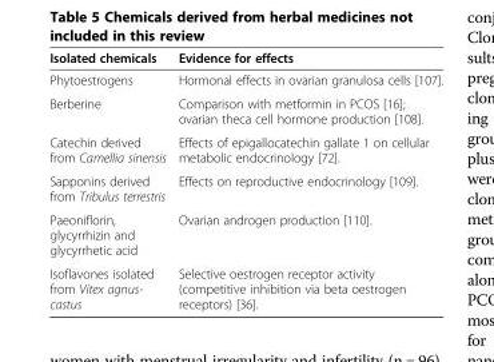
<table><thead><tr><td>Isolated chemicals</td><td>Evidence for effects</td></tr></thead><tbody><tr><td>Phytoestrogens</td><td>Hormonal effects in ovarian granulosa cells [107].</td></tr><tr><td>Berberine</td><td>Comparison with metformin in PCOS [16]; ovarian theca cell hormone production [108].</td></tr><tr><td>Catechin derived from Camellia sinensis</td><td>Effects of epigallocatechin gallate 1 on cellular metabolic endocrinology [72].</td></tr><tr><td>Sapponins derived from Tribulus terrestris</td><td>Effects on reproductive endocrinology [109].</td></tr><tr><td>Paeoniflorin, glycyrrhizin and glycyrrhetic acid</td><td>Ovarian androgen production [110].</td></tr><tr><td>Isoflavones isolated from Vitex agnus- castus</td><td>Selective oestrogen receptor activity (competitive inhibition via beta oestrogen receptors) [36].</td></tr></tbody></table>